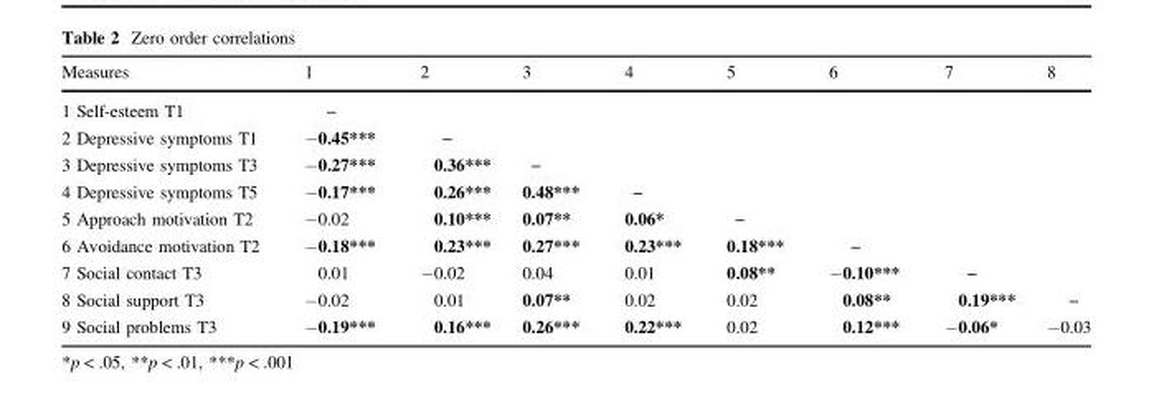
<table><thead><tr><td>Measures</td><td>1</td><td>2</td><td>3</td><td>4</td><td>5</td><td>6</td><td>7</td><td>8</td></tr></thead><tbody><tr><td>1 Self-esteem T1</td><td>–</td><td></td><td></td><td></td><td></td><td></td><td></td><td></td></tr><tr><td>2 Depressive symptoms T1</td><td>−0.45***</td><td>–</td><td></td><td></td><td></td><td></td><td></td><td></td></tr><tr><td>3 Depressive symptoms T3</td><td>−0.27***</td><td>0.36***</td><td>–</td><td></td><td></td><td></td><td></td><td></td></tr><tr><td>4 Depressive symptoms T5</td><td>−0.17***</td><td>0.26***</td><td>0.48***</td><td>–</td><td></td><td></td><td></td><td></td></tr><tr><td>5 Approach motivation T2</td><td>−0.02</td><td>0.10***</td><td>0.07**</td><td>0.06*</td><td>–</td><td></td><td></td><td></td></tr><tr><td>6 Avoidance motivation T2</td><td>−0.18***</td><td>0.23***</td><td>0.27***</td><td>0.23***</td><td>0.18***</td><td>–</td><td></td><td></td></tr><tr><td>7 Social contact T3</td><td>0.01</td><td>−0.02</td><td>0.04</td><td>0.01</td><td>0.08**</td><td>−0.10***</td><td>–</td><td></td></tr><tr><td>8 Social support T3</td><td>−0.02</td><td>0.01</td><td>0.07**</td><td>0.02</td><td>0.02</td><td>0.08**</td><td>0.19***</td><td>–</td></tr><tr><td>9 Social problems T3</td><td>−0.19***</td><td>0.16***</td><td>0.26***</td><td>0.22***</td><td>0.02</td><td>0.12***</td><td>−0.06*</td><td>−0.03</td></tr></tbody></table>